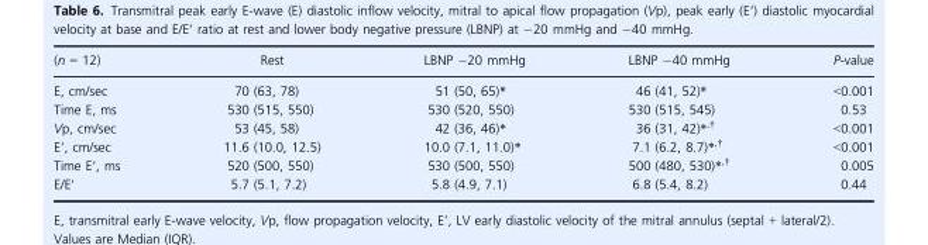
<table><thead><tr><td>(n = 12)</td><td>Rest</td><td>LBNP −20 mmHg</td><td>LBNP −40 mmHg</td><td>P-value</td></tr></thead><tbody><tr><td>E, cm/sec</td><td>70 (63, 78)</td><td>51 (50, 65)*</td><td>46 (41, 52)*</td><td>&lt;0.001</td></tr><tr><td>Time E, ms</td><td>530 (515, 550)</td><td>530 (520, 550)</td><td>530 (515, 545)</td><td>0.53</td></tr><tr><td>Vp, cm/sec</td><td>53 (45, 58)</td><td>42 (36, 46)*</td><td>36 (31, 42)*<sup>,</sup>†</td><td>&lt;0.001</td></tr><tr><td>E‘, cm/sec</td><td>11.6 (10.0, 12.5)</td><td>10.0 (7.1, 11.0)*</td><td>7.1 (6.2, 8.7)*<sup>,</sup>†</td><td>&lt;0.001</td></tr><tr><td>Time E‘, ms</td><td>520 (500, 550)</td><td>530 (500, 550)</td><td>500 (480, 530)*<sup>,</sup>†</td><td>0.005</td></tr><tr><td>E/E‘</td><td>5.7 (5.1, 7.2)</td><td>5.8 (4.9, 7.1)</td><td>6.8 (5.4, 8.2)</td><td>0.44</td></tr></tbody></table>